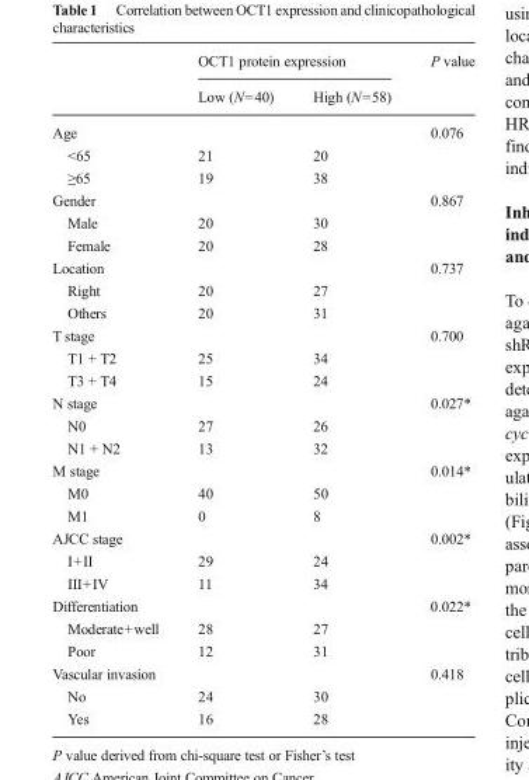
<table><thead><tr><td rowspan="2"></td><td colspan="2">OCT1 protein expression</td><td rowspan="2">P value</td></tr><tr><td>Low (N=40)</td><td>High (N=58)</td></tr></thead><tbody><tr><td>Age</td><td></td><td></td><td>0.076</td></tr><tr><td>&lt;65</td><td>21</td><td>20</td><td></td></tr><tr><td>≥65</td><td>19</td><td>38</td><td></td></tr><tr><td>Gender</td><td></td><td></td><td>0.867</td></tr><tr><td>Male</td><td>20</td><td>30</td><td></td></tr><tr><td>Female</td><td>20</td><td>28</td><td></td></tr><tr><td>Location</td><td></td><td></td><td>0.737</td></tr><tr><td>Right</td><td>20</td><td>27</td><td></td></tr><tr><td>Others</td><td>20</td><td>31</td><td></td></tr><tr><td>T stage</td><td></td><td></td><td>0.700</td></tr><tr><td>T1 + T2</td><td>25</td><td>34</td><td></td></tr><tr><td>T3 + T4</td><td>15</td><td>24</td><td></td></tr><tr><td>N stage</td><td></td><td></td><td>0.027*</td></tr><tr><td>N0</td><td>27</td><td>26</td><td></td></tr><tr><td>N1 + N2</td><td>13</td><td>32</td><td></td></tr><tr><td>M stage</td><td></td><td></td><td>0.014*</td></tr><tr><td>M0</td><td>40</td><td>50</td><td></td></tr><tr><td>M1</td><td>0</td><td>8</td><td></td></tr><tr><td>AJCC stage</td><td></td><td></td><td>0.002*</td></tr><tr><td>I+II</td><td>29</td><td>24</td><td></td></tr><tr><td>III+IV</td><td>11</td><td>34</td><td></td></tr><tr><td>Differentiation</td><td></td><td></td><td>0.022*</td></tr><tr><td>Moderate+well</td><td>28</td><td>27</td><td></td></tr><tr><td>Poor</td><td>12</td><td>31</td><td></td></tr><tr><td>Vascular invasion</td><td></td><td></td><td>0.418</td></tr><tr><td>No</td><td>24</td><td>30</td><td></td></tr><tr><td>Yes</td><td>16</td><td>28</td><td></td></tr></tbody></table>